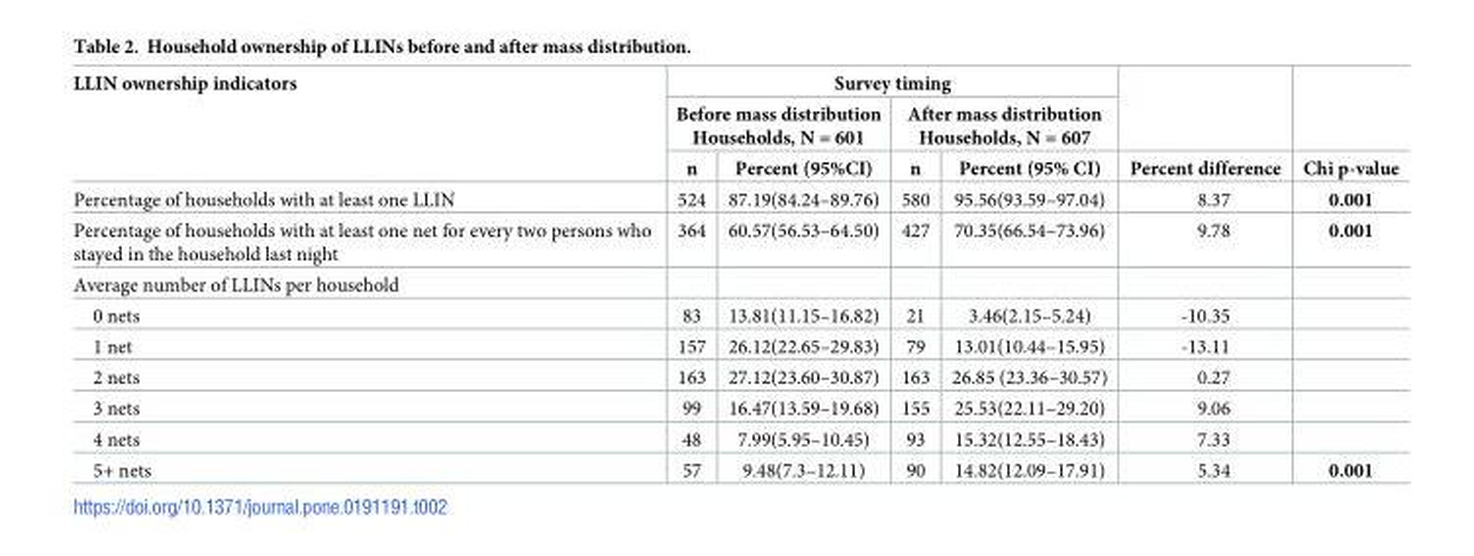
<table><thead><tr><td rowspan="3">LLIN ownership indicators</td><td colspan="4">Survey timing</td><td rowspan="3">Percent difference</td><td rowspan="3">Chi p-value</td></tr><tr><td colspan="2">Before mass distribution Households, N = 601</td><td colspan="2">After mass distribution Households, N = 607</td></tr><tr><td>n</td><td>Percent (95%CI)</td><td>n</td><td>Percent (95% CI)</td></tr></thead><tbody><tr><td>Percentage of households with at least one LLIN</td><td>524</td><td>87.19(84.24–89.76)</td><td>580</td><td>95.56(93.59–97.04)</td><td>8.37</td><td>0.001</td></tr><tr><td>Percentage of households with at least one net for every two persons who stayed in the household last night</td><td>364</td><td>60.57(56.53–64.50)</td><td>427</td><td>70.35(66.54–73.96)</td><td>9.78</td><td>0.001</td></tr><tr><td colspan="7">Average number of LLINs per household</td></tr><tr><td>0 nets</td><td>83</td><td>13.81(11.15–16.82)</td><td>21</td><td>3.46(2.15–5.24)</td><td>-10.35</td><td></td></tr><tr><td>1 net</td><td>157</td><td>26.12(22.65–29.83)</td><td>79</td><td>13.01(10.44–15.95)</td><td>-13.11</td><td></td></tr><tr><td>2 nets</td><td>163</td><td>27.12(23.60–30.87)</td><td>163</td><td>26.85 (23.36–30.57)</td><td>0.27</td><td></td></tr><tr><td>3 nets</td><td>99</td><td>16.47(13.59–19.68)</td><td>155</td><td>25.53(22.11–29.20)</td><td>9.06</td><td></td></tr><tr><td>4 nets</td><td>48</td><td>7.99(5.95–10.45)</td><td>93</td><td>15.32(12.55–18.43)</td><td>7.33</td><td></td></tr><tr><td>5+ nets</td><td>57</td><td>9.48(7.3–12.11)</td><td>90</td><td>14.82(12.09–17.91)</td><td>5.34</td><td>0.001</td></tr></tbody></table>